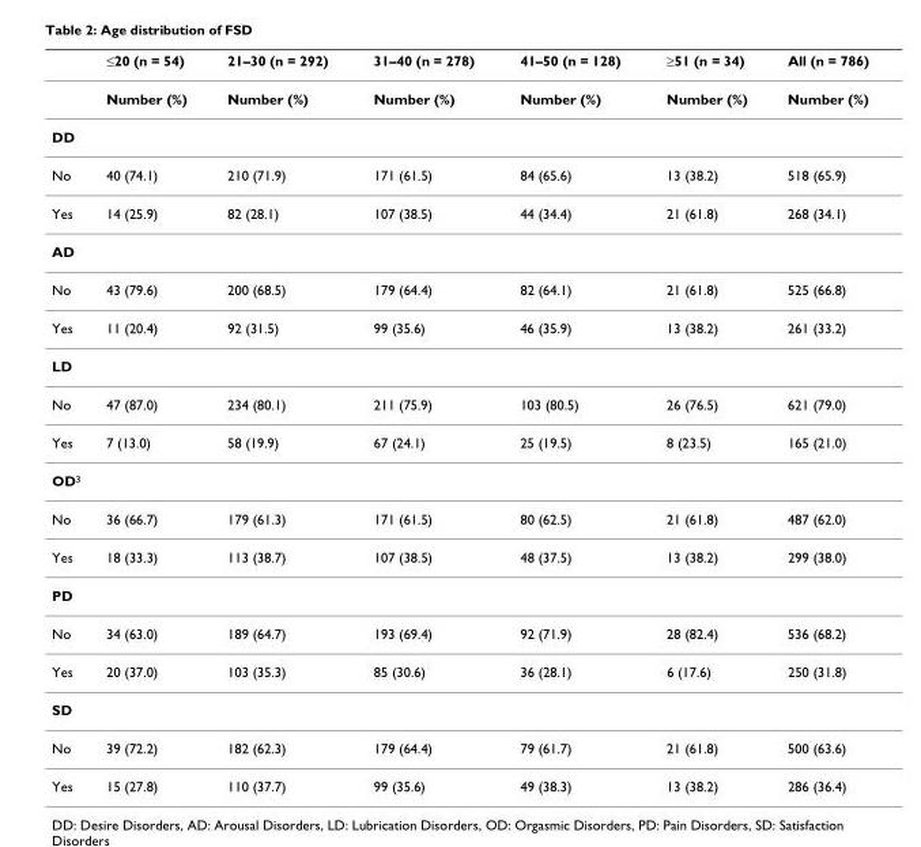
<table><thead><tr><td></td><td>≤20 (n = 54)</td><td>21–30 (n = 292)</td><td>31–40 (n = 278)</td><td>41–50 (n = 128)</td><td>≥51 (n = 34)</td><td>All (n = 786)</td></tr></thead><tbody><tr><td></td><td>Number (%)</td><td>Number (%)</td><td>Number (%)</td><td>Number (%)</td><td>Number (%)</td><td>Number (%)</td></tr><tr><td colspan="7">DD</td></tr><tr><td>No</td><td>40 (74.1)</td><td>210 (71.9)</td><td>171 (61.5)</td><td>84 (65.6)</td><td>13 (38.2)</td><td>518 (65.9)</td></tr><tr><td>Yes</td><td>14 (25.9)</td><td>82 (28.1)</td><td>107 (38.5)</td><td>44 (34.4)</td><td>21 (61.8)</td><td>268 (34.1)</td></tr><tr><td colspan="7">AD</td></tr><tr><td>No</td><td>43 (79.6)</td><td>200 (68.5)</td><td>179 (64.4)</td><td>82 (64.1)</td><td>21 (61.8)</td><td>525 (66.8)</td></tr><tr><td>Yes</td><td>11 (20.4)</td><td>92 (31.5)</td><td>99 (35.6)</td><td>46 (35.9)</td><td>13 (38.2)</td><td>261 (33.2)</td></tr><tr><td colspan="7">LD</td></tr><tr><td>No</td><td>47 (87.0)</td><td>234 (80.1)</td><td>211 (75.9)</td><td>103 (80.5)</td><td>26 (76.5)</td><td>621 (79.0)</td></tr><tr><td>Yes</td><td>7 (13.0)</td><td>58 (19.9)</td><td>67 (24.1)</td><td>25 (19.5)</td><td>8 (23.5)</td><td>165 (21.0)</td></tr><tr><td colspan="7">OD<sup>3</sup></td></tr><tr><td>No</td><td>36 (66.7)</td><td>179 (61.3)</td><td>171 (61.5)</td><td>80 (62.5)</td><td>21 (61.8)</td><td>487 (62.0)</td></tr><tr><td>Yes</td><td>18 (33.3)</td><td>113 (38.7)</td><td>107 (38.5)</td><td>48 (37.5)</td><td>13 (38.2)</td><td>299 (38.0)</td></tr><tr><td colspan="7">PD</td></tr><tr><td>No</td><td>34 (63.0)</td><td>189 (64.7)</td><td>193 (69.4)</td><td>92 (71.9)</td><td>28 (82.4)</td><td>536 (68.2)</td></tr><tr><td>Yes</td><td>20 (37.0)</td><td>103 (35.3)</td><td>85 (30.6)</td><td>36 (28.1)</td><td>6 (17.6)</td><td>250 (31.8)</td></tr><tr><td colspan="7">SD</td></tr><tr><td>No</td><td>39 (72.2)</td><td>182 (62.3)</td><td>179 (64.4)</td><td>79 (61.7)</td><td>21 (61.8)</td><td>500 (63.6)</td></tr><tr><td>Yes</td><td>15 (27.8)</td><td>110 (37.7)</td><td>99 (35.6)</td><td>49 (38.3)</td><td>13 (38.2)</td><td>286 (36.4)</td></tr></tbody></table>